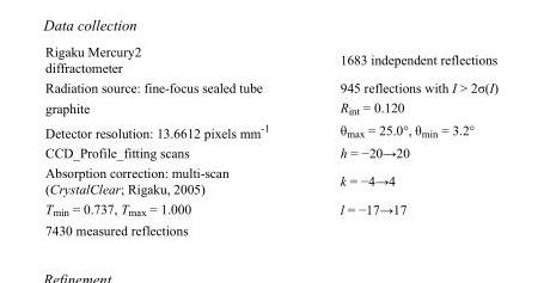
<table><tbody><tr><td>Rigaku Mercury2 diffractometer</td><td>1683 independent reflections</td></tr><tr><td>Radiation source: fine-focus sealed tube</td><td>945 reflections with I &gt; 2σ(I)</td></tr><tr><td>graphite</td><td>R<sub>int</sub> = 0.120</td></tr><tr><td>Detector resolution: 13.6612 pixels mm<sup>-1</sup></td><td>θ<sub>max</sub> = 25.0°, θ<sub>min</sub> = 3.2°</td></tr><tr><td>CCD_Profile_fitting scans</td><td>h = −20→20</td></tr><tr><td>Absorption correction: multi-scan (CrystalClear; Rigaku, 2005)</td><td>k = −4→4</td></tr><tr><td>T<sub>min</sub> = 0.737, T<sub>max</sub> = 1.000</td><td>l = −17→17</td></tr><tr><td>7430 measured reflections</td><td></td></tr></tbody></table>